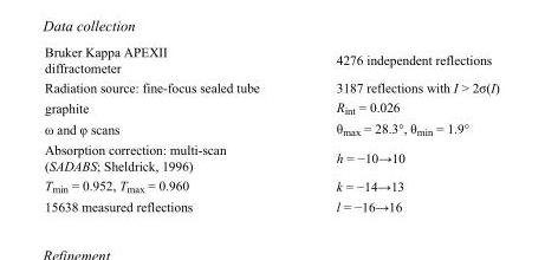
<table><tbody><tr><td>Bruker Kappa APEXII diffractometer</td><td>4276 independent reflections</td></tr><tr><td>Radiation source: fine-focus sealed tube</td><td>3187 reflections with I &gt; 2σ(I)</td></tr><tr><td>graphite</td><td>R<sub>int</sub> = 0.026</td></tr><tr><td>ω and φ scans</td><td>θ<sub>max</sub> = 28.3°, θ<sub>min</sub> = 1.9°</td></tr><tr><td>Absorption correction: multi-scan (SADABS; Sheldrick, 1996)</td><td>h = −10→10</td></tr><tr><td>T<sub>min</sub> = 0.952, T<sub>max</sub> = 0.960</td><td>k = −14→13</td></tr><tr><td>15638 measured reflections</td><td>l = −16→16</td></tr></tbody></table>